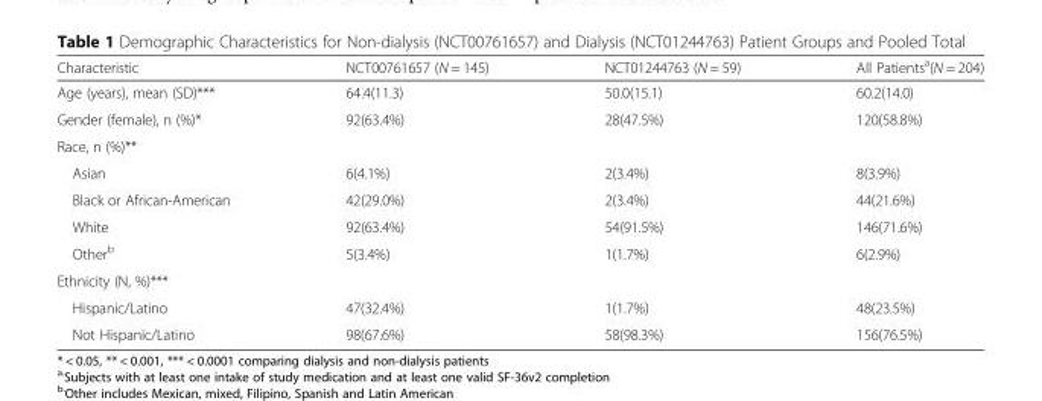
<table><thead><tr><td>Characteristic</td><td>NCT00761657 (N = 145)</td><td>NCT01244763 (N = 59)</td><td>All Patients<sup>a</sup>(N = 204)</td></tr></thead><tbody><tr><td>Age (years), mean (SD)***</td><td>64.4(11.3)</td><td>50.0(15.1)</td><td>60.2(14.0)</td></tr><tr><td>Gender (female), n (%)*</td><td>92(63.4%)</td><td>28(47.5%)</td><td>120(58.8%)</td></tr><tr><td colspan="4">Race, n (%)**</td></tr><tr><td>Asian</td><td>6(4.1%)</td><td>2(3.4%)</td><td>8(3.9%)</td></tr><tr><td>Black or African-American</td><td>42(29.0%)</td><td>2(3.4%)</td><td>44(21.6%)</td></tr><tr><td>White</td><td>92(63.4%)</td><td>54(91.5%)</td><td>146(71.6%)</td></tr><tr><td>Other<sup>b</sup></td><td>5(3.4%)</td><td>1(1.7%)</td><td>6(2.9%)</td></tr><tr><td colspan="4">Ethnicity (N, %)***</td></tr><tr><td>Hispanic/Latino</td><td>47(32.4%)</td><td>1(1.7%)</td><td>48(23.5%)</td></tr><tr><td>Not Hispanic/Latino</td><td>98(67.6%)</td><td>58(98.3%)</td><td>156(76.5%)</td></tr></tbody></table>